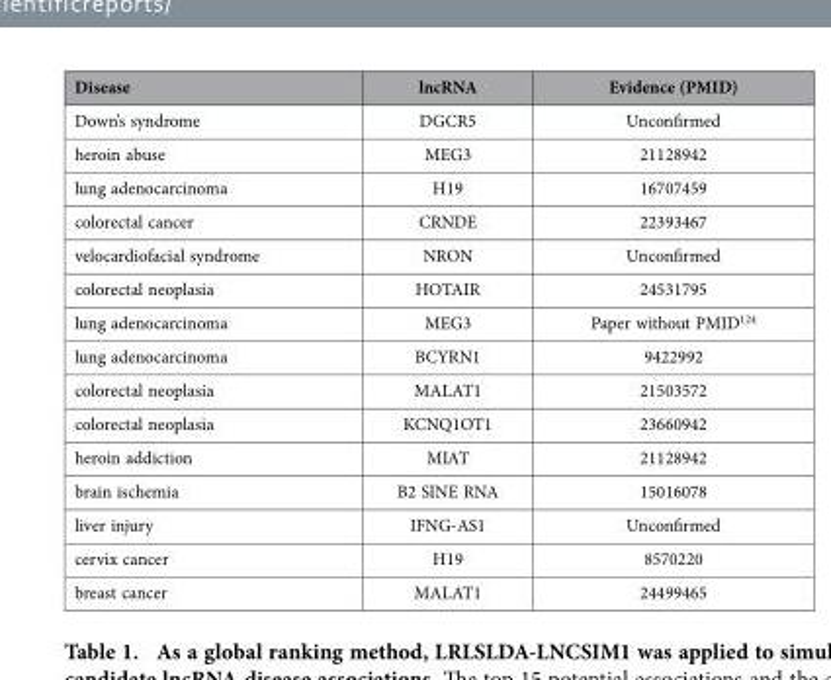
<table><thead><tr><td>Disease</td><td>lncRNA</td><td>Evidence (PMID)</td></tr></thead><tbody><tr><td>Down’s syndrome</td><td>DGCR5</td><td>Unconfirmed</td></tr><tr><td>heroin abuse</td><td>MEG3</td><td>21128942</td></tr><tr><td>lung adenocarcinoma</td><td>H19</td><td>16707459</td></tr><tr><td>colorectal cancer</td><td>CRNDE</td><td>22393467</td></tr><tr><td>velocardiofacial syndrome</td><td>NRON</td><td>Unconfirmed</td></tr><tr><td>colorectal neoplasia</td><td>HOTAIR</td><td>24531795</td></tr><tr><td>lung adenocarcinoma</td><td>MEG3</td><td>Paper without PMID<sup>124</sup></td></tr><tr><td>lung adenocarcinoma</td><td>BCYRN1</td><td>9422992</td></tr><tr><td>colorectal neoplasia</td><td>MALAT1</td><td>21503572</td></tr><tr><td>colorectal neoplasia</td><td>KCNQ1OT1</td><td>23660942</td></tr><tr><td>heroin addiction</td><td>MIAT</td><td>21128942</td></tr><tr><td>brain ischemia</td><td>B2 SINE RNA</td><td>15016078</td></tr><tr><td>liver injury</td><td>IFNG-AS1</td><td>Unconfirmed</td></tr><tr><td>cervix cancer</td><td>H19</td><td>8570220</td></tr><tr><td>breast cancer</td><td>MALAT1</td><td>24499465</td></tr></tbody></table>